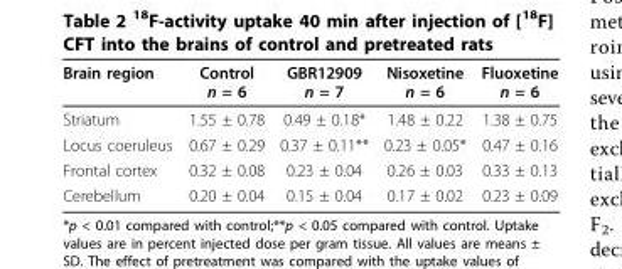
<table><thead><tr><td>Brain region</td><td>Control n = 6</td><td>GBR12909 n = 7</td><td>Nisoxetine n = 6</td><td>Fluoxetine n = 6</td></tr></thead><tbody><tr><td>Striatum</td><td>1.55 ± 0.78</td><td>0.49 ± 0.18*</td><td>1.48 ± 0.22</td><td>1.38 ± 0.75</td></tr><tr><td>Locus coeruleus</td><td>0.67 ± 0.29</td><td>0.37 ± 0.11**</td><td>0.23 ± 0.05*</td><td>0.47 ± 0.16</td></tr><tr><td>Frontal cortex</td><td>0.32 ± 0.08</td><td>0.23 ± 0.04</td><td>0.26 ± 0.03</td><td>0.33 ± 0.13</td></tr><tr><td>Cerebellum</td><td>0.20 ± 0.04</td><td>0.15 ± 0.04</td><td>0.17 ± 0.02</td><td>0.23 ± 0.09</td></tr></tbody></table>